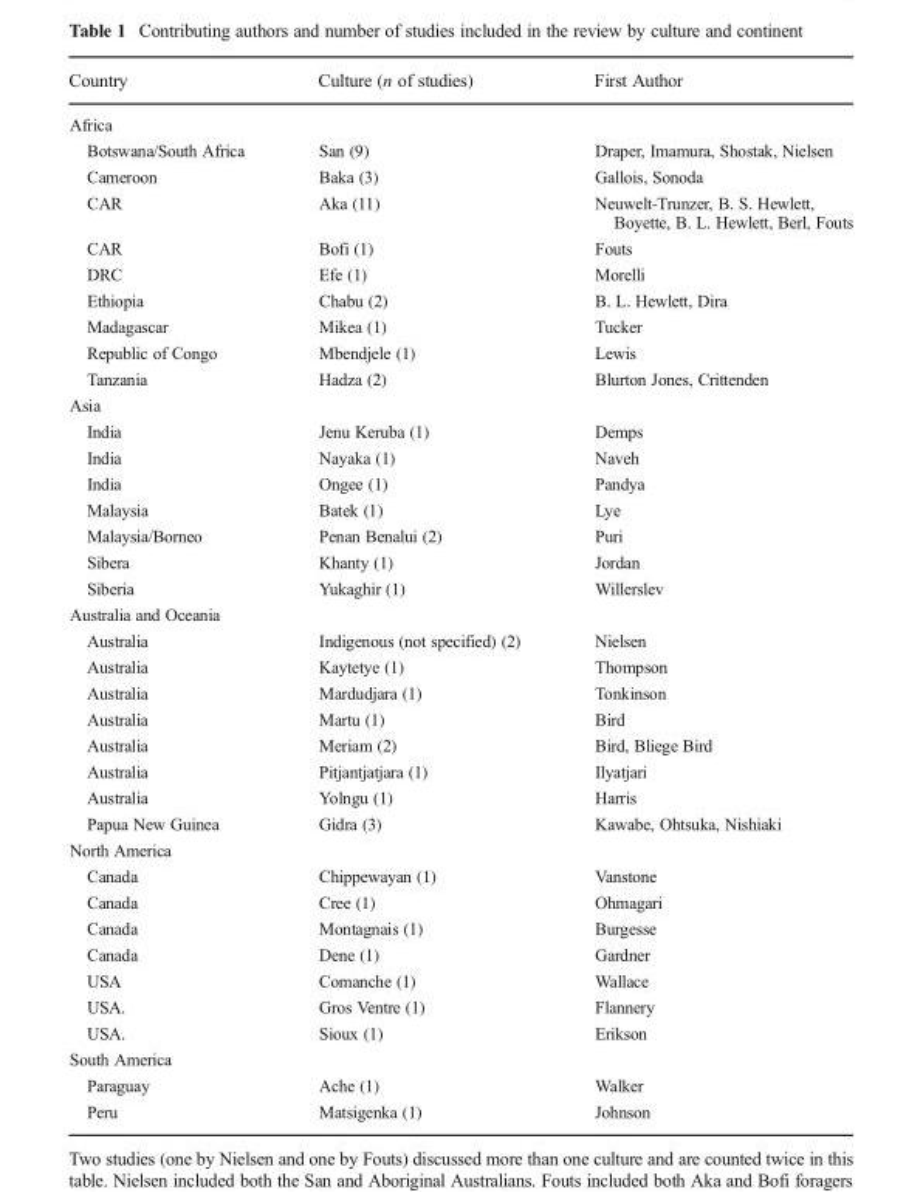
<table><thead><tr><td>Country</td><td>Culture (n of studies)</td><td>First Author</td></tr></thead><tbody><tr><td colspan="3">Africa</td></tr><tr><td>Botswana/South Africa</td><td>San (9)</td><td>Draper, Imamura, Shostak, Nielsen</td></tr><tr><td>Cameroon</td><td>Baka (3)</td><td>Gallois, Sonoda</td></tr><tr><td>CAR</td><td>Aka (11)</td><td>Neuwelt-Trunzer, B. S. Hewlett, Boyette, B. L. Hewlett, Berl, Fouts</td></tr><tr><td>CAR</td><td>Bofi (1)</td><td>Fouts</td></tr><tr><td>DRC</td><td>Efe (1)</td><td>Morelli</td></tr><tr><td>Ethiopia</td><td>Chabu (2)</td><td>B. L. Hewlett, Dira</td></tr><tr><td>Madagascar</td><td>Mikea (1)</td><td>Tucker</td></tr><tr><td>Republic of Congo</td><td>Mbendjele (1)</td><td>Lewis</td></tr><tr><td>Tanzania</td><td>Hadza (2)</td><td>Blurton Jones, Crittenden</td></tr><tr><td colspan="3">Asia</td></tr><tr><td>India</td><td>Jenu Keruba (1)</td><td>Demps</td></tr><tr><td>India</td><td>Nayaka (1)</td><td>Naveh</td></tr><tr><td>India</td><td>Ongee (1)</td><td>Pandya</td></tr><tr><td>Malaysia</td><td>Batek (1)</td><td>Lye</td></tr><tr><td>Malaysia/Borneo</td><td>Penan Benalui (2)</td><td>Puri</td></tr><tr><td>Sibera</td><td>Khanty (1)</td><td>Jordan</td></tr><tr><td>Siberia</td><td>Yukaghir (1)</td><td>Willerslev</td></tr><tr><td colspan="3">Australia and Oceania</td></tr><tr><td>Australia</td><td>Indigenous (not specified) (2)</td><td>Nielsen</td></tr><tr><td>Australia</td><td>Kaytetye (1)</td><td>Thompson</td></tr><tr><td>Australia</td><td>Mardudjara (1)</td><td>Tonkinson</td></tr><tr><td>Australia</td><td>Martu (1)</td><td>Bird</td></tr><tr><td>Australia</td><td>Meriam (2)</td><td>Bird, Bliege Bird</td></tr><tr><td>Australia</td><td>Pitjantjatjara (1)</td><td>Ilyatjari</td></tr><tr><td>Australia</td><td>Yolngu (1)</td><td>Harris</td></tr><tr><td>Papua New Guinea</td><td>Gidra (3)</td><td>Kawabe, Ohtsuka, Nishiaki</td></tr><tr><td colspan="3">North America</td></tr><tr><td>Canada</td><td>Chippewayan (1)</td><td>Vanstone</td></tr><tr><td>Canada</td><td>Cree (1)</td><td>Ohmagari</td></tr><tr><td>Canada</td><td>Montagnais (1)</td><td>Burgesse</td></tr><tr><td>Canada</td><td>Dene (1)</td><td>Gardner</td></tr><tr><td>USA</td><td>Comanche (1)</td><td>Wallace</td></tr><tr><td>USA.</td><td>Gros Ventre (1)</td><td>Flannery</td></tr><tr><td>USA.</td><td>Sioux (1)</td><td>Erikson</td></tr><tr><td colspan="3">South America</td></tr><tr><td>Paraguay</td><td>Ache (1)</td><td>Walker</td></tr><tr><td>Peru</td><td>Matsigenka (1)</td><td>Johnson</td></tr></tbody></table>